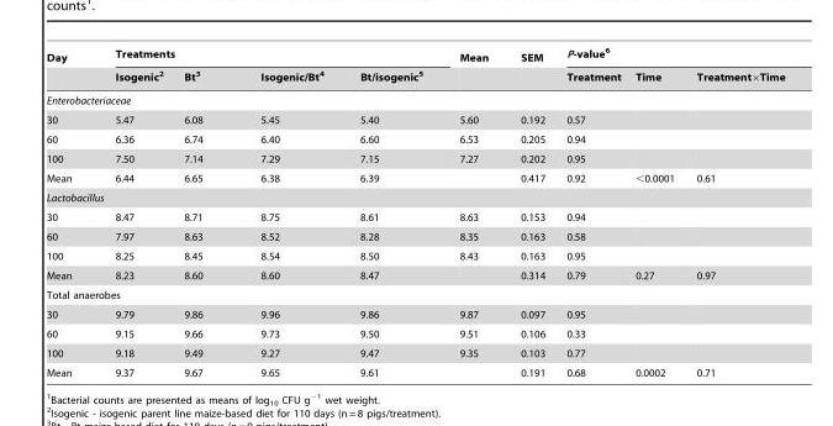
<table><thead><tr><td rowspan="2">Day</td><td colspan="4">Treatments</td><td rowspan="2">Mean</td><td rowspan="2">SEM</td><td colspan="3">P-value<sup>6</sup></td></tr><tr><td>Isogenic<sup>2</sup></td><td>Bt<sup>3</sup></td><td>Isogenic/Bt<sup>4</sup></td><td>Bt/isogenic<sup>5</sup></td><td>Treatment</td><td>Time</td><td>Treatment×Time</td></tr></thead><tbody><tr><td colspan="10">Enterobacteriaceae</td></tr><tr><td>30</td><td>5.47</td><td>6.08</td><td>5.45</td><td>5.40</td><td>5.60</td><td>0.192</td><td>0.57</td><td></td><td></td></tr><tr><td>60</td><td>6.36</td><td>6.74</td><td>6.40</td><td>6.60</td><td>6.53</td><td>0.205</td><td>0.94</td><td></td><td></td></tr><tr><td>100</td><td>7.50</td><td>7.14</td><td>7.29</td><td>7.15</td><td>7.27</td><td>0.202</td><td>0.95</td><td></td><td></td></tr><tr><td>Mean</td><td>6.44</td><td>6.65</td><td>6.38</td><td>6.39</td><td></td><td>0.417</td><td>0.92</td><td>&lt;0.0001</td><td>0.61</td></tr><tr><td colspan="10">Lactobacillus</td></tr><tr><td>30</td><td>8.47</td><td>8.71</td><td>8.75</td><td>8.61</td><td>8.63</td><td>0.153</td><td>0.94</td><td></td><td></td></tr><tr><td>60</td><td>7.97</td><td>8.63</td><td>8.52</td><td>8.28</td><td>8.35</td><td>0.163</td><td>0.58</td><td></td><td></td></tr><tr><td>100</td><td>8.25</td><td>8.45</td><td>8.54</td><td>8.50</td><td>8.43</td><td>0.163</td><td>0.95</td><td></td><td></td></tr><tr><td>Mean</td><td>8.23</td><td>8.60</td><td>8.60</td><td>8.47</td><td></td><td>0.314</td><td>0.79</td><td>0.27</td><td>0.97</td></tr><tr><td colspan="10">Total anaerobes</td></tr><tr><td>30</td><td>9.79</td><td>9.86</td><td>9.96</td><td>9.86</td><td>9.87</td><td>0.097</td><td>0.95</td><td></td><td></td></tr><tr><td>60</td><td>9.15</td><td>9.66</td><td>9.73</td><td>9.50</td><td>9.51</td><td>0.106</td><td>0.33</td><td></td><td></td></tr><tr><td>100</td><td>9.18</td><td>9.49</td><td>9.27</td><td>9.47</td><td>9.35</td><td>0.103</td><td>0.77</td><td></td><td></td></tr><tr><td>Mean</td><td>9.37</td><td>9.67</td><td>9.65</td><td>9.61</td><td></td><td>0.191</td><td>0.68</td><td>0.0002</td><td>0.71</td></tr></tbody></table>